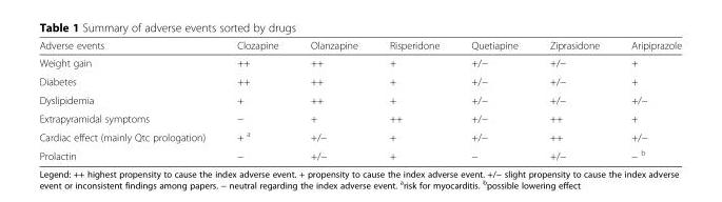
<table><thead><tr><td>Adverse events</td><td>Clozapine</td><td>Olanzapine</td><td>Risperidone</td><td>Quetiapine</td><td>Ziprasidone</td><td>Aripiprazole</td></tr></thead><tbody><tr><td>Weight gain</td><td>++</td><td>++</td><td>+</td><td>+/−</td><td>+/−</td><td>+</td></tr><tr><td>Diabetes</td><td>++</td><td>++</td><td>+</td><td>+/−</td><td>+/−</td><td>+</td></tr><tr><td>Dyslipidemia</td><td>+</td><td>++</td><td>+</td><td>+/−</td><td>+/−</td><td>+/−</td></tr><tr><td>Extrapyramidal symptoms</td><td>−</td><td>+</td><td>++</td><td>+/−</td><td>++</td><td>+</td></tr><tr><td>Cardiac effect (mainly Qtc prologation)</td><td>+ <sup>a</sup></td><td>+/−</td><td>+</td><td>+/−</td><td>++</td><td>+/−</td></tr><tr><td>Prolactin</td><td>−</td><td>+/−</td><td>+</td><td>−</td><td>+/−</td><td>− <sup>b</sup></td></tr></tbody></table>